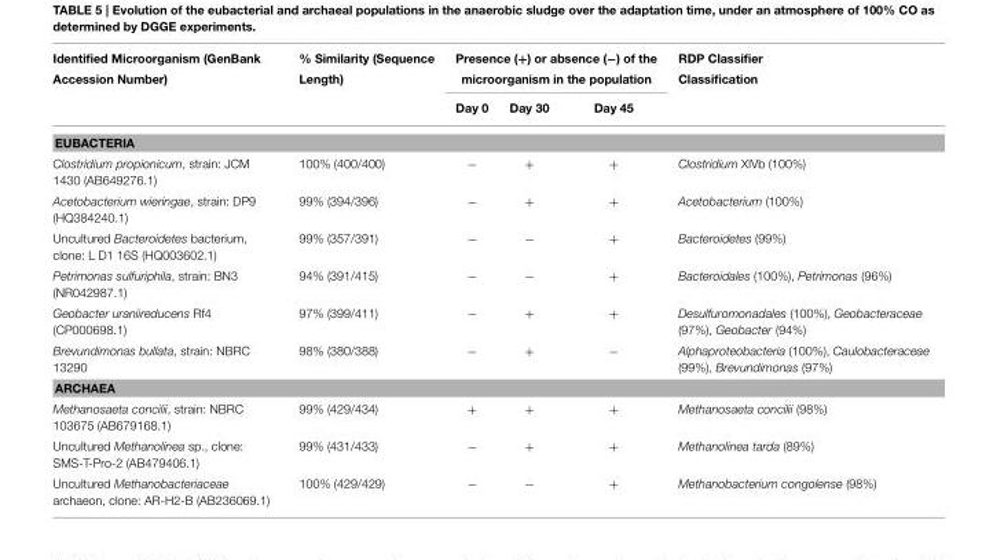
<table><thead><tr><td rowspan="2">Identified Microorganism (GenBank Accession Number)</td><td rowspan="2">% Similarity (Sequence Length)</td><td colspan="3">Presence (+) or absence (−) of the microorganism in the population</td><td rowspan="2">RDP Classifier Classification</td></tr><tr><td>Day 0</td><td>Day 30</td><td>Day 45</td></tr></thead><tbody><tr><td colspan="6">EUBACTERIA</td></tr><tr><td>Clostridium propionicum, strain: JCM 1430 (AB649276.1)</td><td>100% (400/400)</td><td>−</td><td>+</td><td>+</td><td>Clostridium XlVb (100%)</td></tr><tr><td>Acetobacterium wieringae, strain: DP9 (HQ384240.1)</td><td>99% (394/396)</td><td>−</td><td>+</td><td>+</td><td>Acetobacterium (100%)</td></tr><tr><td>Uncultured Bacteroidetes bacterium, clone: L D1 16S (HQ003602.1)</td><td>99% (357/391)</td><td>−</td><td>−</td><td>+</td><td>Bacteroidetes (99%)</td></tr><tr><td>Petrimonas sulfuriphila, strain: BN3 (NR042987.1)</td><td>94% (391/415)</td><td>−</td><td>−</td><td>+</td><td>Bacteroidales (100%), Petrimonas (96%)</td></tr><tr><td>Geobacter uraniireducens Rf4 (CP000698.1)</td><td>97% (399/411)</td><td>−</td><td>+</td><td>+</td><td>Desulfuromonadales (100%), Geobacteraceae (97%), Geobacter (94%)</td></tr><tr><td>Brevundimonas bullata, strain: NBRC 13290</td><td>98% (380/388)</td><td>−</td><td>+</td><td>−</td><td>Alphaproteobacteria (100%), Caulobacteraceae (99%), Brevundimonas (97%)</td></tr><tr><td colspan="6">ARCHAEA</td></tr><tr><td>Methanosaeta concilii, strain: NBRC 103675 (AB679168.1)</td><td>99% (429/434)</td><td>+</td><td>+</td><td>+</td><td>Methanosaeta concilii (98%)</td></tr><tr><td>Uncultured Methanolinea sp., clone: SMS-T-Pro-2 (AB479406.1)</td><td>99% (431/433)</td><td>−</td><td>+</td><td>+</td><td>Methanolinea tarda (89%)</td></tr><tr><td>Uncultured Methanobacteriaceae archaeon, clone: AR-H2-B (AB236069.1)</td><td>100% (429/429)</td><td>−</td><td>−</td><td>+</td><td>Methanobacterium congolense (98%)</td></tr></tbody></table>